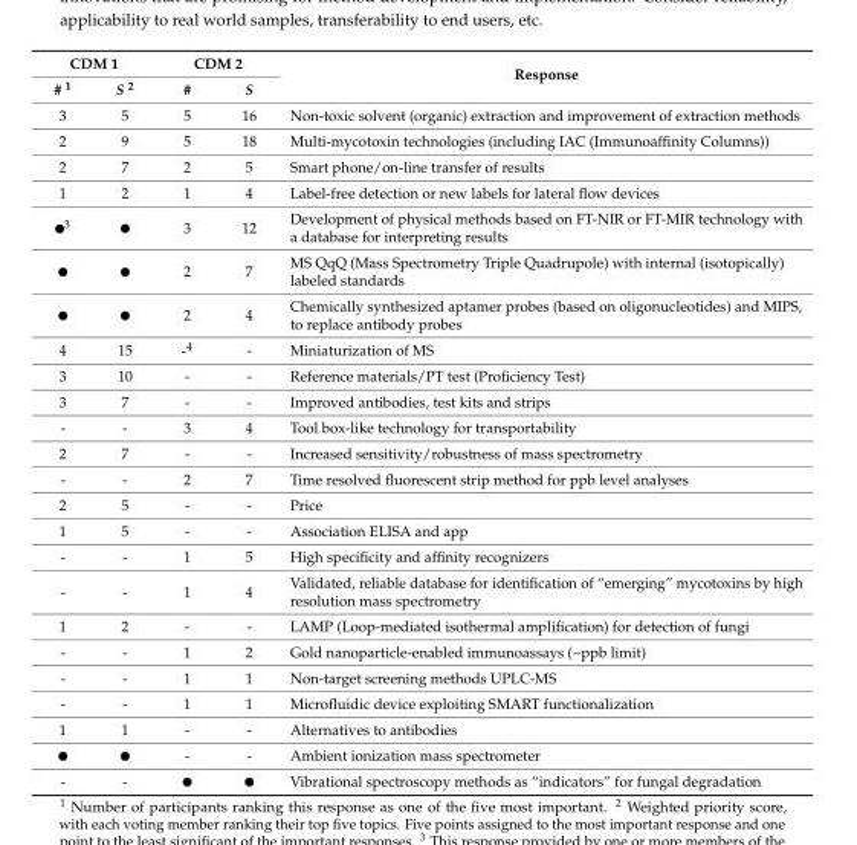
<table><thead><tr><td colspan="2">CDM 1</td><td colspan="2">CDM 2</td><td rowspan="2">Response</td></tr><tr><td># <sup>1</sup></td><td>S <sup>2</sup></td><td>#</td><td>S</td></tr></thead><tbody><tr><td>3</td><td>5</td><td>5</td><td>16</td><td>Non-toxic solvent (organic) extraction and improvement of extraction methods</td></tr><tr><td>2</td><td>9</td><td>5</td><td>18</td><td>Multi-mycotoxin technologies (including IAC (Immunoaffinity Columns))</td></tr><tr><td>2</td><td>7</td><td>2</td><td>5</td><td>Smart phone/on-line transfer of results</td></tr><tr><td>1</td><td>2</td><td>1</td><td>4</td><td>Label-free detection or new labels for lateral flow devices</td></tr><tr><td>3</td><td></td><td>3</td><td>12</td><td>Development of physical methods based on FT-NIR or FT-MIR technology with a database for interpreting results</td></tr><tr><td></td><td></td><td>2</td><td>7</td><td>MS QqQ (Mass Spectrometry Triple Quadrupole) with internal (isotopically) labeled standards</td></tr><tr><td></td><td></td><td>2</td><td>4</td><td>Chemically synthesized aptamer probes (based on oligonucleotides) and MIPS, to replace antibody probes</td></tr><tr><td>4</td><td>15</td><td>-<sup>4</sup></td><td>-</td><td>Miniaturization of MS</td></tr><tr><td>3</td><td>10</td><td>-</td><td>-</td><td>Reference materials/PT test (Proficiency Test)</td></tr><tr><td>3</td><td>7</td><td>-</td><td>-</td><td>Improved antibodies, test kits and strips</td></tr><tr><td>-</td><td>-</td><td>3</td><td>4</td><td>Tool box-like technology for transportability</td></tr><tr><td>2</td><td>7</td><td>-</td><td>-</td><td>Increased sensitivity/robustness of mass spectrometry</td></tr><tr><td>-</td><td>-</td><td>2</td><td>7</td><td>Time resolved fluorescent strip method for ppb level analyses</td></tr><tr><td>2</td><td>5</td><td>-</td><td>-</td><td>Price</td></tr><tr><td>1</td><td>5</td><td>-</td><td>-</td><td>Association ELISA and app</td></tr><tr><td>-</td><td>-</td><td>1</td><td>5</td><td>High specificity and affinity recognizers</td></tr><tr><td>-</td><td>-</td><td>1</td><td>4</td><td>Validated, reliable database for identification of “emerging” mycotoxins by high resolution mass spectrometry</td></tr><tr><td>1</td><td>2</td><td>-</td><td>-</td><td>LAMP (Loop-mediated isothermal amplification) for detection of fungi</td></tr><tr><td>-</td><td>-</td><td>1</td><td>2</td><td>Gold nanoparticle-enabled immunoassays (~ppb limit)</td></tr><tr><td>-</td><td>-</td><td>1</td><td>1</td><td>Non-target screening methods UPLC-MS</td></tr><tr><td>-</td><td>-</td><td>1</td><td>1</td><td>Microfluidic device exploiting SMART functionalization</td></tr><tr><td>1</td><td>1</td><td>-</td><td>-</td><td>Alternatives to antibodies</td></tr><tr><td></td><td></td><td>-</td><td>-</td><td>Ambient ionization mass spectrometer</td></tr><tr><td>-</td><td>-</td><td></td><td></td><td>Vibrational spectroscopy methods as “indicators” for fungal degradation</td></tr></tbody></table>